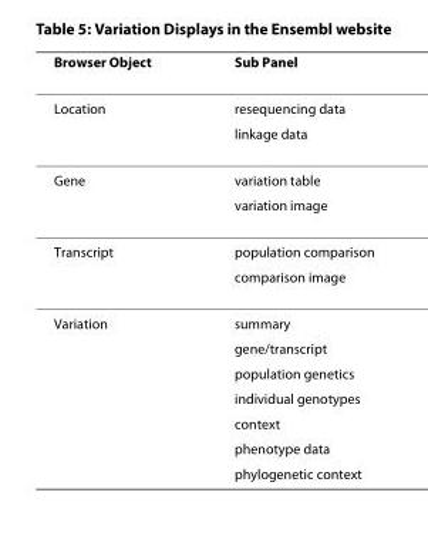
<table><thead><tr><td>Browser Object</td><td>Sub Panel</td></tr></thead><tbody><tr><td rowspan="2">Location</td><td>resequencing data</td></tr><tr><td>linkage data</td></tr><tr><td rowspan="2">Gene</td><td>variation table</td></tr><tr><td>variation image</td></tr><tr><td rowspan="2">Transcript</td><td>population comparison</td></tr><tr><td>comparison image</td></tr><tr><td rowspan="7">Variation</td><td>summary</td></tr><tr><td>gene/transcript</td></tr><tr><td>population genetics</td></tr><tr><td>individual genotypes</td></tr><tr><td>context</td></tr><tr><td>phenotype data</td></tr><tr><td>phylogenetic context</td></tr></tbody></table>